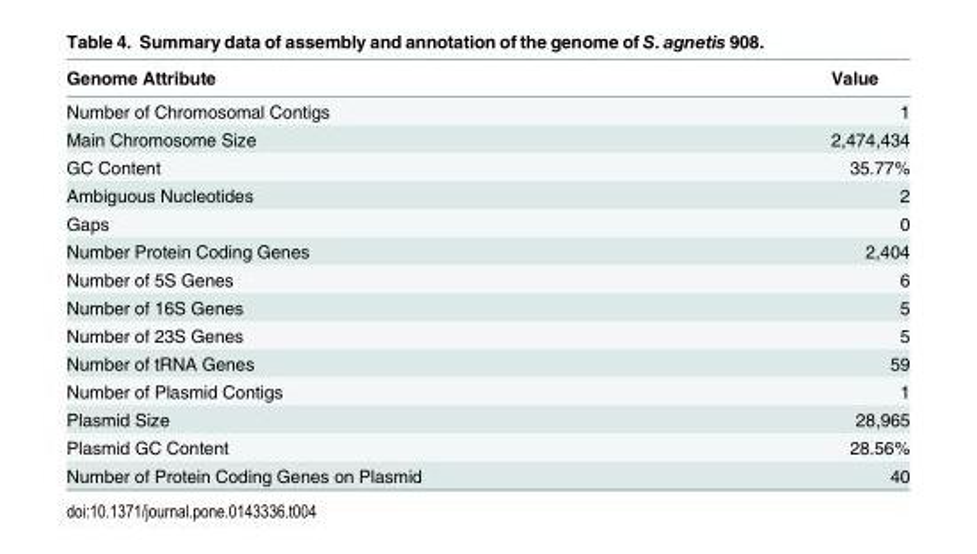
<table><thead><tr><td>Genome Attribute</td><td>Value</td></tr></thead><tbody><tr><td>Number of Chromosomal Contigs</td><td>1</td></tr><tr><td>Main Chromosome Size</td><td>2,474,434</td></tr><tr><td>GC Content</td><td>35.77%</td></tr><tr><td>Ambiguous Nucleotides</td><td>2</td></tr><tr><td>Gaps</td><td>0</td></tr><tr><td>Number Protein Coding Genes</td><td>2,404</td></tr><tr><td>Number of 5S Genes</td><td>6</td></tr><tr><td>Number of 16S Genes</td><td>5</td></tr><tr><td>Number of 23S Genes</td><td>5</td></tr><tr><td>Number of tRNA Genes</td><td>59</td></tr><tr><td>Number of Plasmid Contigs</td><td>1</td></tr><tr><td>Plasmid Size</td><td>28,965</td></tr><tr><td>Plasmid GC Content</td><td>28.56%</td></tr><tr><td>Number of Protein Coding Genes on Plasmid</td><td>40</td></tr></tbody></table>